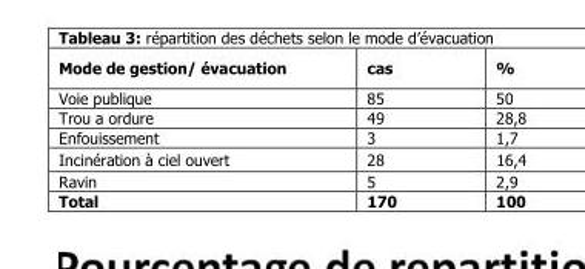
<table><thead><tr><td>Mode de gestion/ évacuation</td><td>cas</td><td>%</td></tr></thead><tbody><tr><td>Voie publique</td><td>85</td><td>50</td></tr><tr><td>Trou a ordure</td><td>49</td><td>28,8</td></tr><tr><td>Enfouissement</td><td>3</td><td>1,7</td></tr><tr><td>Incinération à ciel ouvert</td><td>28</td><td>16,4</td></tr><tr><td>Ravin</td><td>5</td><td>2,9</td></tr><tr><td>Total</td><td>170</td><td>100</td></tr></tbody></table>